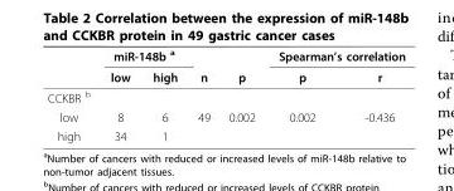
<table><thead><tr><td rowspan="2"></td><td colspan="2">miR-148b <sup>a</sup></td><td rowspan="2">n</td><td rowspan="2">p</td><td colspan="2">Spearman’s correlation</td></tr><tr><td>low</td><td>high</td><td>p</td><td>r</td></tr></thead><tbody><tr><td colspan="7">CCKBR <sup>b</sup></td></tr><tr><td>low</td><td>8</td><td>6</td><td>49</td><td>0.002</td><td>0.002</td><td>-0.436</td></tr><tr><td>high</td><td>34</td><td>1</td><td></td><td></td><td></td><td></td></tr></tbody></table>